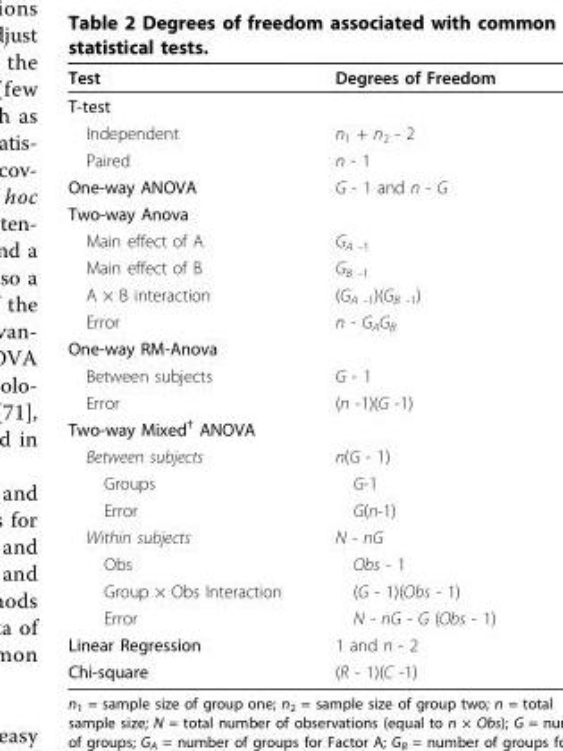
<table><thead><tr><td>Test</td><td>Degrees of Freedom</td></tr></thead><tbody><tr><td colspan="2">T-test</td></tr><tr><td>Independent</td><td>n<sub>1</sub> + n<sub>2</sub> - 2</td></tr><tr><td>Paired</td><td>n - 1</td></tr><tr><td>One-way ANOVA</td><td>G - 1 and n - G</td></tr><tr><td colspan="2">Two-way Anova</td></tr><tr><td>Main effect of A</td><td>G<sub>A -1</sub></td></tr><tr><td>Main effect of B</td><td>G<sub>B -1</sub></td></tr><tr><td>A × B interaction</td><td>(G<sub>A -1</sub>)(G<sub>B -1</sub>)</td></tr><tr><td>Error</td><td>n - G<sub>A</sub>G<sub>B</sub></td></tr><tr><td colspan="2">One-way RM-Anova</td></tr><tr><td>Between subjects</td><td>G - 1</td></tr><tr><td>Error</td><td>(n -1)(G -1)</td></tr><tr><td colspan="2">Two-way Mixed† ANOVA</td></tr><tr><td>Between subjects</td><td>n(G - 1)</td></tr><tr><td>Groups</td><td>G-1</td></tr><tr><td>Error</td><td>G(n-1)</td></tr><tr><td>Within subjects</td><td>N - nG</td></tr><tr><td>Obs</td><td>Obs - 1</td></tr><tr><td>Group × Obs Interaction</td><td>(G - 1)(Obs - 1)</td></tr><tr><td>Error</td><td>N - nG - G (Obs - 1)</td></tr><tr><td>Linear Regression</td><td>1 and n - 2</td></tr><tr><td>Chi-square</td><td>(R - 1)(C -1)</td></tr></tbody></table>